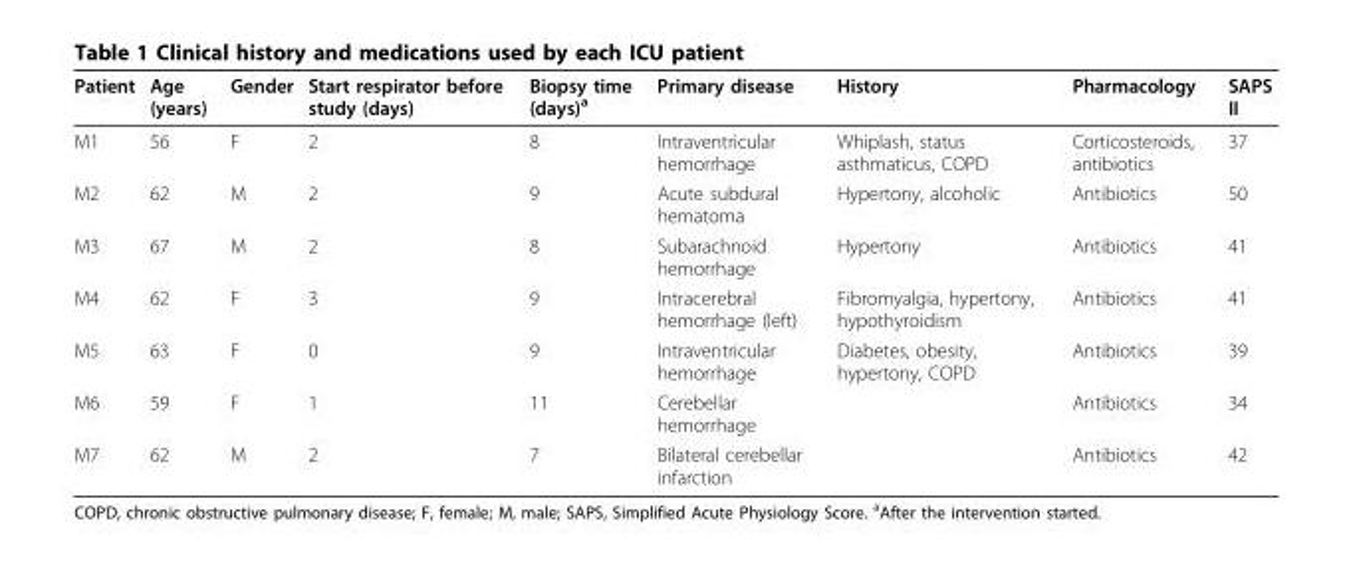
<table><thead><tr><td>Patient</td><td>Age (years)</td><td>Gender</td><td>Start respirator before study (days)</td><td>Biopsy time (days)<sup>a</sup></td><td>Primary disease</td><td>History</td><td>Pharmacology</td><td>SAPS II</td></tr></thead><tbody><tr><td>M1</td><td>56</td><td>F</td><td>2</td><td>8</td><td>Intraventricular hemorrhage</td><td>Whiplash, status asthmaticus, COPD</td><td>Corticosteroids, antibiotics</td><td>37</td></tr><tr><td>M2</td><td>62</td><td>M</td><td>2</td><td>9</td><td>Acute subdural hematoma</td><td>Hypertony, alcoholic</td><td>Antibiotics</td><td>50</td></tr><tr><td>M3</td><td>67</td><td>M</td><td>2</td><td>8</td><td>Subarachnoid hemorrhage</td><td>Hypertony</td><td>Antibiotics</td><td>41</td></tr><tr><td>M4</td><td>62</td><td>F</td><td>3</td><td>9</td><td>Intracerebral hemorrhage (left)</td><td>Fibromyalgia, hypertony, hypothyroidism</td><td>Antibiotics</td><td>41</td></tr><tr><td>M5</td><td>63</td><td>F</td><td>0</td><td>9</td><td>Intraventricular hemorrhage</td><td>Diabetes, obesity, hypertony, COPD</td><td>Antibiotics</td><td>39</td></tr><tr><td>M6</td><td>59</td><td>F</td><td>1</td><td>11</td><td>Cerebellar hemorrhage</td><td></td><td>Antibiotics</td><td>34</td></tr><tr><td>M7</td><td>62</td><td>M</td><td>2</td><td>7</td><td>Bilateral cerebellar infarction</td><td></td><td>Antibiotics</td><td>42</td></tr></tbody></table>